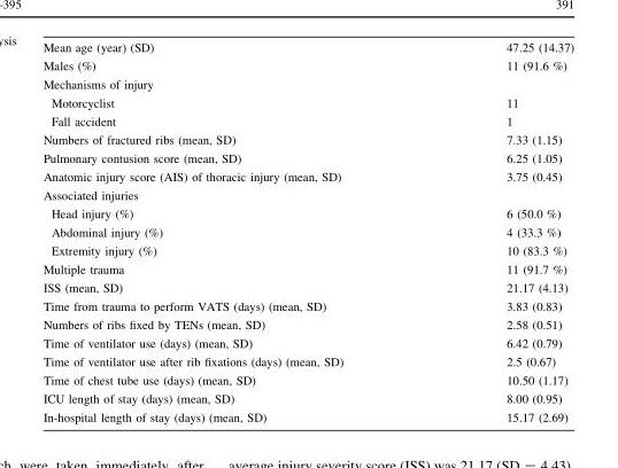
<table><tbody><tr><td>Mean age (year) (SD)</td><td>47.25 (14.37)</td></tr><tr><td>Males (%)</td><td>11 (91.6 %)</td></tr><tr><td colspan="2">Mechanisms of injury</td></tr><tr><td>Motorcyclist</td><td>11</td></tr><tr><td>Fall accident</td><td>1</td></tr><tr><td>Numbers of fractured ribs (mean, SD)</td><td>7.33 (1.15)</td></tr><tr><td>Pulmonary contusion score (mean, SD)</td><td>6.25 (1.05)</td></tr><tr><td>Anatomic injury score (AIS) of thoracic injury (mean, SD)</td><td>3.75 (0.45)</td></tr><tr><td colspan="2">Associated injuries</td></tr><tr><td>Head injury (%)</td><td>6 (50.0 %)</td></tr><tr><td>Abdominal injury (%)</td><td>4 (33.3 %)</td></tr><tr><td>Extremity injury (%)</td><td>10 (83.3 %)</td></tr><tr><td>Multiple trauma</td><td>11 (91.7 %)</td></tr><tr><td>ISS (mean, SD)</td><td>21.17 (4.13)</td></tr><tr><td>Time from trauma to perform VATS (days) (mean, SD)</td><td>3.83 (0.83)</td></tr><tr><td>Numbers of ribs fixed by TENs (mean, SD)</td><td>2.58 (0.51)</td></tr><tr><td>Time of ventilator use (days) (mean, SD)</td><td>6.42 (0.79)</td></tr><tr><td>Time of ventilator use after rib fixations (days) (mean, SD)</td><td>2.5 (0.67)</td></tr><tr><td>Time of chest tube use (days) (mean, SD)</td><td>10.50 (1.17)</td></tr><tr><td>ICU length of stay (days) (mean, SD)</td><td>8.00 (0.95)</td></tr><tr><td>In-hospital length of stay (days) (mean, SD)</td><td>15.17 (2.69)</td></tr></tbody></table>